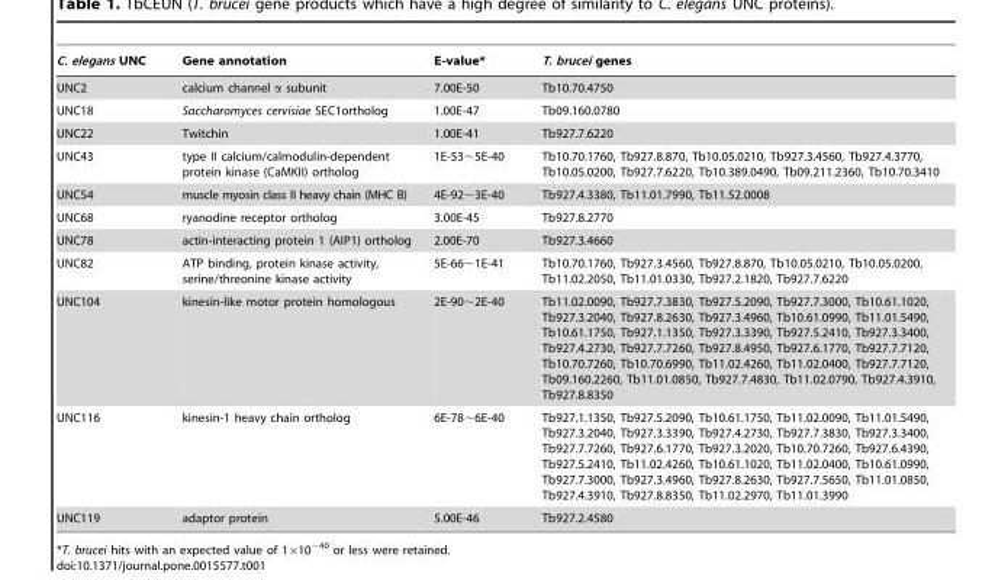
<table><thead><tr><td>C. elegans UNC</td><td>Gene annotation</td><td>E-value*</td><td>T. brucei genes</td></tr></thead><tbody><tr><td>UNC2</td><td>calcium channel α subunit</td><td>7.00E-50</td><td>Tb10.70.4750</td></tr><tr><td>UNC18</td><td>Saccharomyces cervisiae SEC1ortholog</td><td>1.00E-47</td><td>Tb09.160.0780</td></tr><tr><td>UNC22</td><td>Twitchin</td><td>1.00E-41</td><td>Tb927.7.6220</td></tr><tr><td>UNC43</td><td>type II calcium/calmodulin-dependent protein kinase (CaMKII) ortholog</td><td>1E-53∼5E-40</td><td>Tb10.70.1760, Tb927.8.870, Tb10.05.0210, Tb927.3.4560, Tb927.4.3770, Tb10.05.0200, Tb927.7.6220, Tb10.389.0490, Tb09.211.2360, Tb10.70.3410</td></tr><tr><td>UNC54</td><td>muscle myosin class II heavy chain (MHC B)</td><td>4E-92∼3E-40</td><td>Tb927.4.3380, Tb11.01.7990, Tb11.52.0008</td></tr><tr><td>UNC68</td><td>ryanodine receptor ortholog</td><td>3.00E-45</td><td>Tb927.8.2770</td></tr><tr><td>UNC78</td><td>actin-interacting protein 1 (AIP1) ortholog</td><td>2.00E-70</td><td>Tb927.3.4660</td></tr><tr><td>UNC82</td><td>ATP binding, protein kinase activity, serine/threonine kinase activity</td><td>5E-66∼1E-41</td><td>Tb10.70.1760, Tb927.3.4560, Tb927.8.870, Tb10.05.0210, Tb10.05.0200, Tb11.02.2050, Tb11.01.0330, Tb927.2.1820, Tb927.7.6220</td></tr><tr><td>UNC104</td><td>kinesin-like motor protein homologous</td><td>2E-90∼2E-40</td><td>Tb11.02.0090, Tb927.7.3830, Tb927.5.2090, Tb927.7.3000, Tb10.61.1020, Tb927.3.2040, Tb927.8.2630, Tb927.3.4960, Tb10.61.0990, Tb11.01.5490, Tb10.61.1750, Tb927.1.1350, Tb927.3.3390, Tb927.5.2410, Tb927.3.3400, Tb927.4.2730, Tb927.7.7260, Tb927.8.4950, Tb927.6.1770, Tb927.7.7120, Tb10.70.7260, Tb10.70.6990, Tb11.02.4260, Tb11.02.0400, Tb927.7.7120, Tb09.160.2260, Tb11.01.0850, Tb927.7.4830, Tb11.02.0790, Tb927.4.3910, Tb927.8.8350</td></tr><tr><td>UNC116</td><td>kinesin-1 heavy chain ortholog</td><td>6E-78∼6E-40</td><td>Tb927.1.1350, Tb927.5.2090, Tb10.61.1750, Tb11.02.0090, Tb11.01.5490, Tb927.3.2040, Tb927.3.3390, Tb927.4.2730, Tb927.7.3830, Tb927.3.3400, Tb927.7.7260, Tb927.6.1770, Tb927.3.2020, Tb10.70.7260, Tb927.6.4390, Tb927.5.2410, Tb11.02.4260, Tb10.61.1020, Tb11.02.0400, Tb10.61.0990, Tb927.7.3000, Tb927.3.4960, Tb927.8.2630, Tb927.7.5650, Tb11.01.0850, Tb927.4.3910, Tb927.8.8350, Tb11.02.2970, Tb11.01.3990</td></tr><tr><td>UNC119</td><td>adaptor protein</td><td>5.00E-46</td><td>Tb927.2.4580</td></tr></tbody></table>